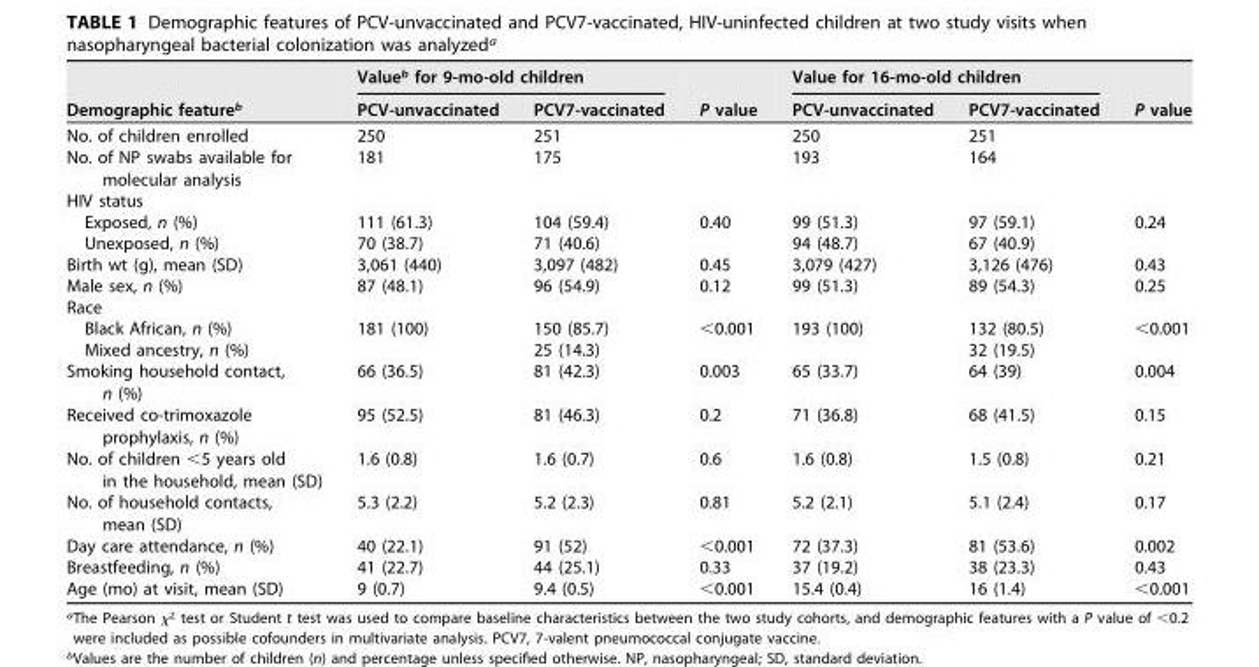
<table><thead><tr><td rowspan="2">Demographic feature<sup>b</sup></td><td colspan="2">Value<sup>b</sup> for 9-mo-old children</td><td rowspan="2">P value</td><td colspan="2">Value for 16-mo-old children</td><td rowspan="2">P value</td></tr><tr><td>PCV-unvaccinated</td><td>PCV7-vaccinated</td><td>PCV-unvaccinated</td><td>PCV7-vaccinated</td></tr></thead><tbody><tr><td>No. of children enrolled</td><td>250</td><td>251</td><td></td><td>250</td><td>251</td><td></td></tr><tr><td>No. of NP swabs available for molecular analysis</td><td>181</td><td>175</td><td></td><td>193</td><td>164</td><td></td></tr><tr><td colspan="7">HIV status</td></tr><tr><td>Exposed, n (%)</td><td>111 (61.3)</td><td>104 (59.4)</td><td>0.40</td><td>99 (51.3)</td><td>97 (59.1)</td><td>0.24</td></tr><tr><td>Unexposed, n (%)</td><td>70 (38.7)</td><td>71 (40.6)</td><td></td><td>94 (48.7)</td><td>67 (40.9)</td><td></td></tr><tr><td>Birth wt (g), mean (SD)</td><td>3,061 (440)</td><td>3,097 (482)</td><td>0.45</td><td>3,079 (427)</td><td>3,126 (476)</td><td>0.43</td></tr><tr><td>Male sex, n (%)</td><td>87 (48.1)</td><td>96 (54.9)</td><td>0.12</td><td>99 (51.3)</td><td>89 (54.3)</td><td>0.25</td></tr><tr><td colspan="7">Race</td></tr><tr><td>Black African, n (%)</td><td>181 (100)</td><td>150 (85.7)</td><td>&lt;0.001</td><td>193 (100)</td><td>132 (80.5)</td><td>&lt;0.001</td></tr><tr><td>Mixed ancestry, n (%)</td><td></td><td>25 (14.3)</td><td></td><td></td><td>32 (19.5)</td><td></td></tr><tr><td>Smoking household contact, n (%)</td><td>66 (36.5)</td><td>81 (42.3)</td><td>0.003</td><td>65 (33.7)</td><td>64 (39)</td><td>0.004</td></tr><tr><td>Received co-trimoxazole prophylaxis, n (%)</td><td>95 (52.5)</td><td>81 (46.3)</td><td>0.2</td><td>71 (36.8)</td><td>68 (41.5)</td><td>0.15</td></tr><tr><td>No. of children &lt;5 years old in the household, mean (SD)</td><td>1.6 (0.8)</td><td>1.6 (0.7)</td><td>0.6</td><td>1.6 (0.8)</td><td>1.5 (0.8)</td><td>0.21</td></tr><tr><td>No. of household contacts, mean (SD)</td><td>5.3 (2.2)</td><td>5.2 (2.3)</td><td>0.81</td><td>5.2 (2.1)</td><td>5.1 (2.4)</td><td>0.17</td></tr><tr><td>Day care attendance, n (%)</td><td>40 (22.1)</td><td>91 (52)</td><td>&lt;0.001</td><td>72 (37.3)</td><td>81 (53.6)</td><td>0.002</td></tr><tr><td>Breastfeeding, n (%)</td><td>41 (22.7)</td><td>44 (25.1)</td><td>0.33</td><td>37 (19.2)</td><td>38 (23.3)</td><td>0.43</td></tr><tr><td>Age (mo) at visit, mean (SD)</td><td>9 (0.7)</td><td>9.4 (0.5)</td><td>&lt;0.001</td><td>15.4 (0.4)</td><td>16 (1.4)</td><td>&lt;0.001</td></tr></tbody></table>